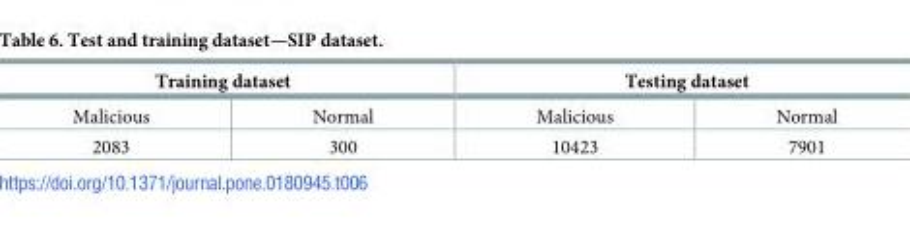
<table><thead><tr><td colspan="2">Training dataset</td><td colspan="2">Testing dataset</td></tr><tr><td>Malicious</td><td>Normal</td><td>Malicious</td><td>Normal</td></tr></thead><tbody><tr><td>2083</td><td>300</td><td>10423</td><td>7901</td></tr></tbody></table>